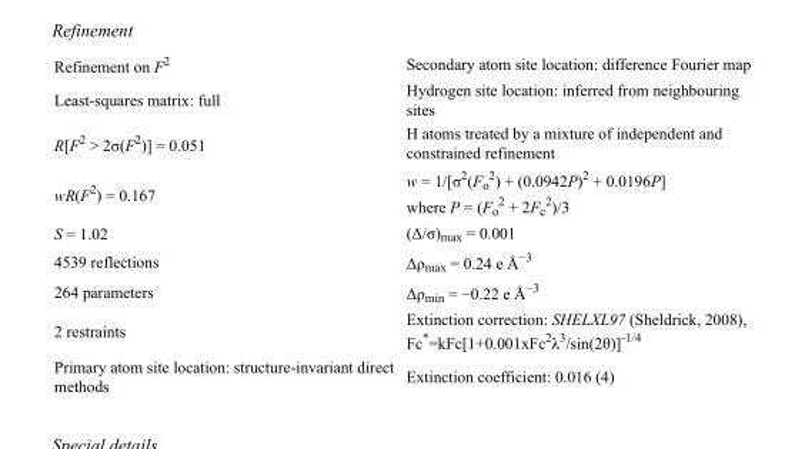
<table><tbody><tr><td>Refinement on F<sup>2</sup></td><td>Secondary atom site location: difference Fourier map</td></tr><tr><td>Least-squares matrix: full</td><td>Hydrogen site location: inferred from neighbouring sites</td></tr><tr><td>R[F<sup>2</sup> &gt; 2σ(F<sup>2</sup>)] = 0.051</td><td>H atoms treated by a mixture of independent and constrained refinement</td></tr><tr><td>wR(F<sup>2</sup>) = 0.167</td><td>w = 1/[σ<sup>2</sup>(F<sub>o</sub> <sup>2</sup>) + (0.0942P)<sup>2</sup> + 0.0196P] where P = (F<sub>o</sub> <sup>2</sup> + 2F<sub>c</sub> <sup>2</sup>)/3</td></tr><tr><td>S = 1.02</td><td>(Δ/σ)<sub>max</sub> = 0.001</td></tr><tr><td>4539 reflections</td><td>Δρ<sub>max</sub> = 0.24 e Å<sup>−3</sup></td></tr><tr><td>264 parameters</td><td>Δρ<sub>min</sub> = −0.22 e Å<sup>−3</sup></td></tr><tr><td>2 restraints</td><td>Extinction correction: SHELXL97 (Sheldrick, 2008), Fc*=kFc[1+0.001xFc<sup>2</sup>λ<sup>3</sup>/sin(2θ)]<sup>-1/4</sup></td></tr><tr><td>Primary atom site location: structure-invariant direct methods</td><td>Extinction coefficient: 0.016 (4)</td></tr></tbody></table>